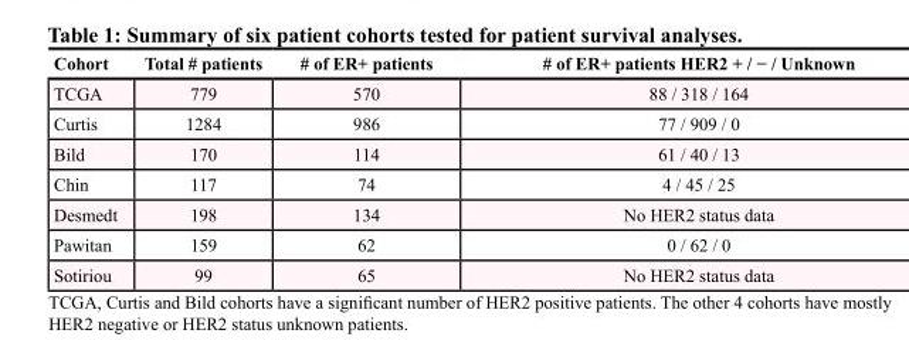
<table><thead><tr><td>Cohort</td><td>Total # patients</td><td># of ER+ patients</td><td># of ER+ patients HER2 + / − / Unknown</td></tr></thead><tbody><tr><td>TCGA</td><td>779</td><td>570</td><td>88 / 318 / 164</td></tr><tr><td>Curtis</td><td>1284</td><td>986</td><td>77 / 909 / 0</td></tr><tr><td>Bild</td><td>170</td><td>114</td><td>61 / 40 / 13</td></tr><tr><td>Chin</td><td>117</td><td>74</td><td>4 / 45 / 25</td></tr><tr><td>Desmedt</td><td>198</td><td>134</td><td>No HER2 status data</td></tr><tr><td>Pawitan</td><td>159</td><td>62</td><td>0 / 62 / 0</td></tr><tr><td>Sotiriou</td><td>99</td><td>65</td><td>No HER2 status data</td></tr></tbody></table>